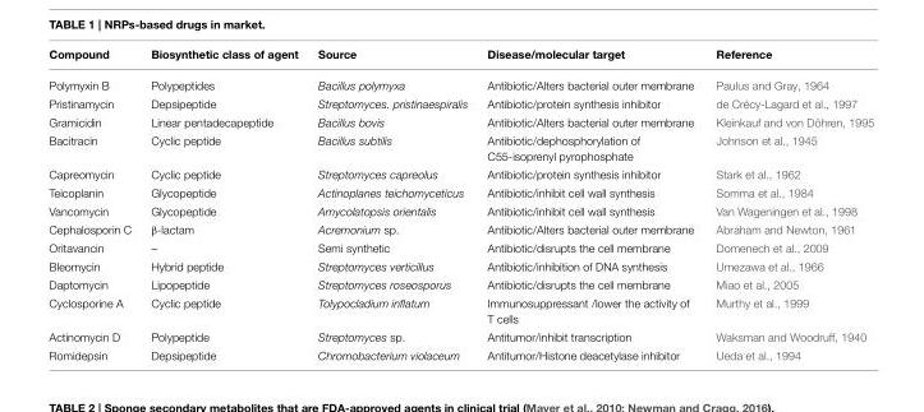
<table><thead><tr><td>Compound</td><td>Biosynthetic class of agent</td><td>Source</td><td>Disease/molecular target</td><td>Reference</td></tr></thead><tbody><tr><td>Polymyxin B</td><td>Polypeptides</td><td>Bacillus polymyxa</td><td>Antibiotic/Alters bacterial outer membrane</td><td>Paulus and Gray, 1964</td></tr><tr><td>Pristinamycin</td><td>Depsipeptide</td><td>Streptomyces. pristinaespiralis</td><td>Antibiotic/protein synthesis inhibitor</td><td>de Crécy-Lagard et al., 1997</td></tr><tr><td>Gramicidin</td><td>Linear pentadecapeptide</td><td>Bacillus bovis</td><td>Antibiotic/Alters bacterial outer membrane</td><td>Kleinkauf and von Döhren, 1995</td></tr><tr><td>Bacitracin</td><td>Cyclic peptide</td><td>Bacillus subtilis</td><td>Antibiotic/dephosphorylation of C55-isoprenyl pyrophosphate</td><td>Johnson et al., 1945</td></tr><tr><td>Capreomycin</td><td>Cyclic peptide</td><td>Streptomyces capreolus</td><td>Antibiotic/protein synthesis inhibitor</td><td>Stark et al., 1962</td></tr><tr><td>Teicoplanin</td><td>Glycopeptide</td><td>Actinoplanes teichomyceticus</td><td>Antibiotic/inhibit cell wall synthesis</td><td>Somma et al., 1984</td></tr><tr><td>Vancomycin</td><td>Glycopeptide</td><td>Amycolatopsis orientalis</td><td>Antibiotic/inhibit cell wall synthesis</td><td>Van Wageningen et al., 1998</td></tr><tr><td>Cephalosporin C</td><td>β-lactam</td><td>Acremonium sp.</td><td>Antibiotic/Alters bacterial outer membrane</td><td>Abraham and Newton, 1961</td></tr><tr><td>Oritavancin</td><td>–</td><td>Semi synthetic</td><td>Antibiotic/disrupts the cell membrane</td><td>Domenech et al., 2009</td></tr><tr><td>Bleomycin</td><td>Hybrid peptide</td><td>Streptomyces verticillus</td><td>Antibiotic/inhibition of DNA synthesis</td><td>Umezawa et al., 1966</td></tr><tr><td>Daptomycin</td><td>Lipopeptide</td><td>Streptomyces roseosporus</td><td>Antibiotic/disrupts the cell membrane</td><td>Miao et al., 2005</td></tr><tr><td>Cyclosporine A</td><td>Cyclic peptide</td><td>Tolypocladium inflatum</td><td>Immunosuppressant /lower the activity of T cells</td><td>Murthy et al., 1999</td></tr><tr><td>Actinomycin D</td><td>Polypeptide</td><td>Streptomyces sp.</td><td>Antitumor/inhibit transcription</td><td>Waksman and Woodruff, 1940</td></tr><tr><td>Romidepsin</td><td>Depsipeptide</td><td>Chromobacterium violaceum</td><td>Antitumor/Histone deacetylase inhibitor</td><td>Ueda et al., 1994</td></tr></tbody></table>